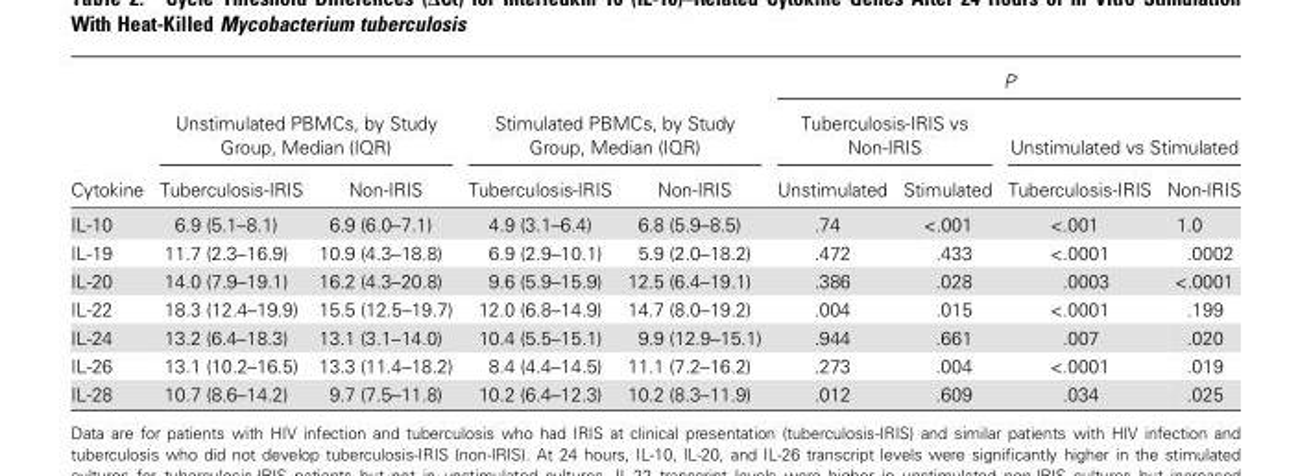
<table><thead><tr><td rowspan="3">Cytokine</td><td></td><td></td><td></td><td></td><td colspan="4">P</td></tr><tr><td colspan="2">Unstimulated PBMCs, by Study Group, Median (IQR)</td><td colspan="2">Stimulated PBMCs, by Study Group, Median (IQR)</td><td colspan="2">Tuberculosis-IRIS vs Non-IRIS</td><td colspan="2">Unstimulated vs Stimulated</td></tr><tr><td>Tuberculosis-IRIS</td><td>Non-IRIS</td><td>Tuberculosis-IRIS</td><td>Non-IRIS</td><td>Unstimulated</td><td>Stimulated</td><td>Tuberculosis-IRIS</td><td>Non-IRIS</td></tr></thead><tbody><tr><td>IL-10</td><td>6.9 (5.1–8.1)</td><td>6.9 (6.0–7.1)</td><td>4.9 (3.1–6.4)</td><td>6.8 (5.9–8.5)</td><td>.74</td><td>&lt;.001</td><td>&lt;.001</td><td>1.0</td></tr><tr><td>IL-19</td><td>11.7 (2.3–16.9)</td><td>10.9 (4.3–18.8)</td><td>6.9 (2.9–10.1)</td><td>5.9 (2.0–18.2)</td><td>.472</td><td>.433</td><td>&lt;.0001</td><td>.0002</td></tr><tr><td>IL-20</td><td>14.0 (7.9–19.1)</td><td>16.2 (4.3–20.8)</td><td>9.6 (5.9–15.9)</td><td>12.5 (6.4–19.1)</td><td>.386</td><td>.028</td><td>.0003</td><td>&lt;.0001</td></tr><tr><td>IL-22</td><td>18.3 (12.4–19.9)</td><td>15.5 (12.5–19.7)</td><td>12.0 (6.8–14.9)</td><td>14.7 (8.0–19.2)</td><td>.004</td><td>.015</td><td>&lt;.0001</td><td>.199</td></tr><tr><td>IL-24</td><td>13.2 (6.4–18.3)</td><td>13.1 (3.1–14.0)</td><td>10.4 (5.5–15.1)</td><td>9.9 (12.9–15.1)</td><td>.944</td><td>.661</td><td>.007</td><td>.020</td></tr><tr><td>IL-26</td><td>13.1 (10.2–16.5)</td><td>13.3 (11.4–18.2)</td><td>8.4 (4.4–14.5)</td><td>11.1 (7.2–16.2)</td><td>.273</td><td>.004</td><td>&lt;.0001</td><td>.019</td></tr><tr><td>IL-28</td><td>10.7 (8.6–14.2)</td><td>9.7 (7.5–11.8)</td><td>10.2 (6.4–12.3)</td><td>10.2 (8.3–11.9)</td><td>.012</td><td>.609</td><td>.034</td><td>.025</td></tr></tbody></table>